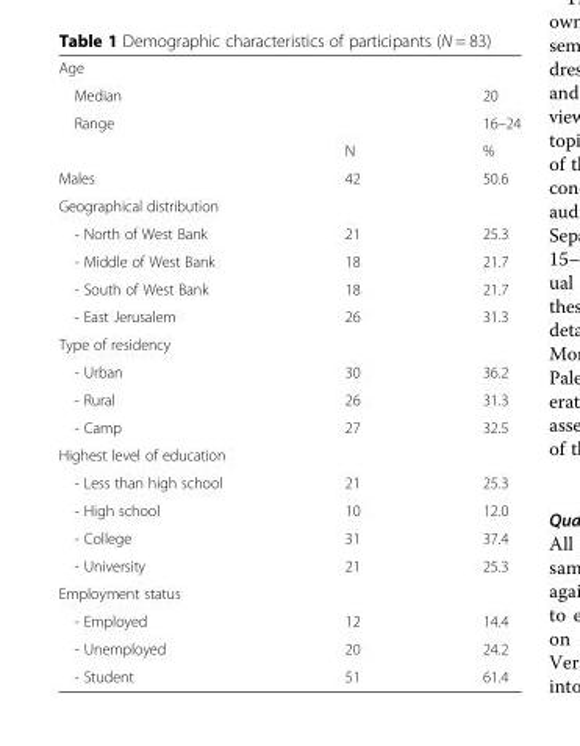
<table><tbody><tr><td colspan="3">Age</td></tr><tr><td>Median</td><td></td><td>20</td></tr><tr><td rowspan="2">Range</td><td></td><td>16–24</td></tr><tr><td>N</td><td>%</td></tr><tr><td>Males</td><td>42</td><td>50.6</td></tr><tr><td colspan="3">Geographical distribution</td></tr><tr><td>- North of West Bank</td><td>21</td><td>25.3</td></tr><tr><td>- Middle of West Bank</td><td>18</td><td>21.7</td></tr><tr><td>- South of West Bank</td><td>18</td><td>21.7</td></tr><tr><td>- East Jerusalem</td><td>26</td><td>31.3</td></tr><tr><td colspan="3">Type of residency</td></tr><tr><td>- Urban</td><td>30</td><td>36.2</td></tr><tr><td>- Rural</td><td>26</td><td>31.3</td></tr><tr><td>- Camp</td><td>27</td><td>32.5</td></tr><tr><td colspan="3">Highest level of education</td></tr><tr><td>- Less than high school</td><td>21</td><td>25.3</td></tr><tr><td>- High school</td><td>10</td><td>12.0</td></tr><tr><td>- College</td><td>31</td><td>37.4</td></tr><tr><td>- University</td><td>21</td><td>25.3</td></tr><tr><td colspan="3">Employment status</td></tr><tr><td>- Employed</td><td>12</td><td>14.4</td></tr><tr><td>- Unemployed</td><td>20</td><td>24.2</td></tr><tr><td>- Student</td><td>51</td><td>61.4</td></tr></tbody></table>